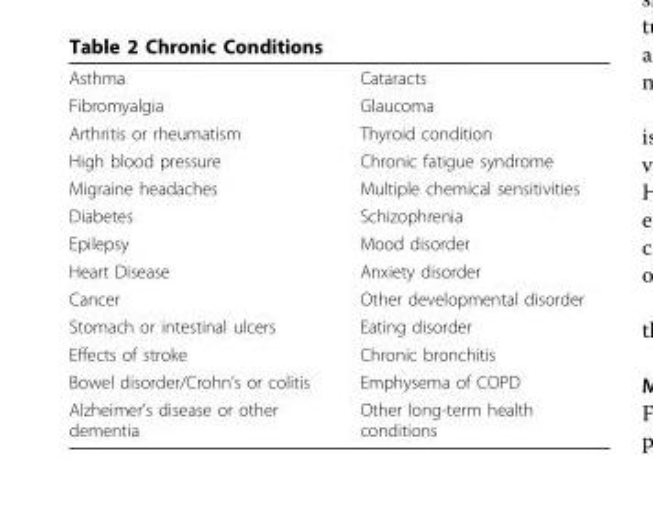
<table><tbody><tr><td>Asthma</td><td>Cataracts</td></tr><tr><td>Fibromyalgia</td><td>Glaucoma</td></tr><tr><td>Arthritis or rheumatism</td><td>Thyroid condition</td></tr><tr><td>High blood pressure</td><td>Chronic fatigue syndrome</td></tr><tr><td>Migraine headaches</td><td>Multiple chemical sensitivities</td></tr><tr><td>Diabetes</td><td>Schizophrenia</td></tr><tr><td>Epilepsy</td><td>Mood disorder</td></tr><tr><td>Heart Disease</td><td>Anxiety disorder</td></tr><tr><td>Cancer</td><td>Other developmental disorder</td></tr><tr><td>Stomach or intestinal ulcers</td><td>Eating disorder</td></tr><tr><td>Effects of stroke</td><td>Chronic bronchitis</td></tr><tr><td>Bowel disorder/Crohn’s or colitis</td><td>Emphysema of COPD</td></tr><tr><td>Alzheimer’s disease or other dementia</td><td>Other long-term health conditions</td></tr></tbody></table>